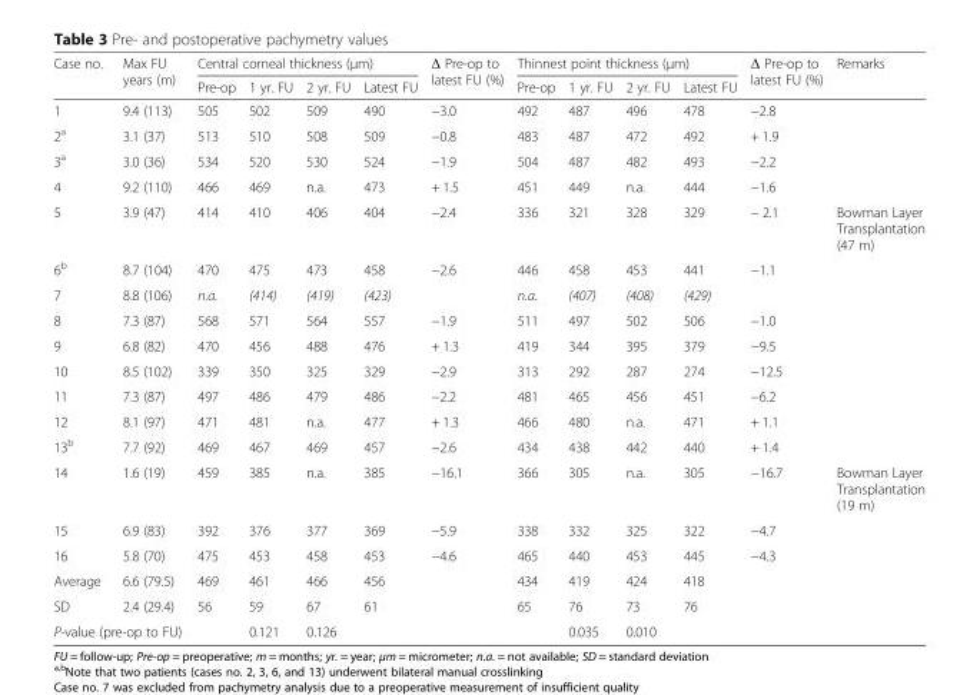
<table><thead><tr><td rowspan="2">Case no.</td><td rowspan="2">Max FU years (m)</td><td colspan="4">Central corneal thickness (μm)</td><td rowspan="2">Δ Pre-op to latest FU (%)</td><td colspan="4">Thinnest point thickness (μm)</td><td rowspan="2">Δ Pre-op to latest FU (%)</td><td rowspan="2">Remarks</td></tr><tr><td>Pre-op</td><td>1 yr. FU</td><td>2 yr. FU</td><td>Latest FU</td><td>Pre-op</td><td>1 yr. FU</td><td>2 yr. FU</td><td>Latest FU</td></tr></thead><tbody><tr><td>1</td><td>9.4 (113)</td><td>505</td><td>502</td><td>509</td><td>490</td><td>−3.0</td><td>492</td><td>487</td><td>496</td><td>478</td><td>−2.8</td><td></td></tr><tr><td>2<sup>a</sup></td><td>3.1 (37)</td><td>513</td><td>510</td><td>508</td><td>509</td><td>−0.8</td><td>483</td><td>487</td><td>472</td><td>492</td><td>+ 1.9</td><td></td></tr><tr><td>3<sup>a</sup></td><td>3.0 (36)</td><td>534</td><td>520</td><td>530</td><td>524</td><td>−1.9</td><td>504</td><td>487</td><td>482</td><td>493</td><td>−2.2</td><td></td></tr><tr><td>4</td><td>9.2 (110)</td><td>466</td><td>469</td><td>n.a.</td><td>473</td><td>+ 1.5</td><td>451</td><td>449</td><td>n.a.</td><td>444</td><td>−1.6</td><td></td></tr><tr><td>5</td><td>3.9 (47)</td><td>414</td><td>410</td><td>406</td><td>404</td><td>−2.4</td><td>336</td><td>321</td><td>328</td><td>329</td><td>− 2.1</td><td>Bowman Layer Transplantation (47 m)</td></tr><tr><td>6<sup>b</sup></td><td>8.7 (104)</td><td>470</td><td>475</td><td>473</td><td>458</td><td>−2.6</td><td>446</td><td>458</td><td>453</td><td>441</td><td>−1.1</td><td></td></tr><tr><td>7</td><td>8.8 (106)</td><td>n.a.</td><td>(414)</td><td>(419)</td><td>(423)</td><td></td><td>n.a.</td><td>(407)</td><td>(408)</td><td>(429)</td><td></td><td></td></tr><tr><td>8</td><td>7.3 (87)</td><td>568</td><td>571</td><td>564</td><td>557</td><td>−1.9</td><td>511</td><td>497</td><td>502</td><td>506</td><td>−1.0</td><td></td></tr><tr><td>9</td><td>6.8 (82)</td><td>470</td><td>456</td><td>488</td><td>476</td><td>+ 1.3</td><td>419</td><td>344</td><td>395</td><td>379</td><td>−9.5</td><td></td></tr><tr><td>10</td><td>8.5 (102)</td><td>339</td><td>350</td><td>325</td><td>329</td><td>−2.9</td><td>313</td><td>292</td><td>287</td><td>274</td><td>−12.5</td><td></td></tr><tr><td>11</td><td>7.3 (87)</td><td>497</td><td>486</td><td>479</td><td>486</td><td>−2.2</td><td>481</td><td>465</td><td>456</td><td>451</td><td>−6.2</td><td></td></tr><tr><td>12</td><td>8.1 (97)</td><td>471</td><td>481</td><td>n.a.</td><td>477</td><td>+ 1.3</td><td>466</td><td>480</td><td>n.a.</td><td>471</td><td>+ 1.1</td><td></td></tr><tr><td>13<sup>b</sup></td><td>7.7 (92)</td><td>469</td><td>467</td><td>469</td><td>457</td><td>−2.6</td><td>434</td><td>438</td><td>442</td><td>440</td><td>+ 1.4</td><td></td></tr><tr><td>14</td><td>1.6 (19)</td><td>459</td><td>385</td><td>n.a.</td><td>385</td><td>−16.1</td><td>366</td><td>305</td><td>n.a.</td><td>305</td><td>−16.7</td><td>Bowman Layer Transplantation (19 m)</td></tr><tr><td>15</td><td>6.9 (83)</td><td>392</td><td>376</td><td>377</td><td>369</td><td>−5.9</td><td>338</td><td>332</td><td>325</td><td>322</td><td>−4.7</td><td></td></tr><tr><td>16</td><td>5.8 (70)</td><td>475</td><td>453</td><td>458</td><td>453</td><td>−4.6</td><td>465</td><td>440</td><td>453</td><td>445</td><td>−4.3</td><td></td></tr><tr><td>Average</td><td>6.6 (79.5)</td><td>469</td><td>461</td><td>466</td><td>456</td><td></td><td>434</td><td>419</td><td>424</td><td>418</td><td></td><td></td></tr><tr><td>SD</td><td>2.4 (29.4)</td><td>56</td><td>59</td><td>67</td><td>61</td><td></td><td>65</td><td>76</td><td>73</td><td>76</td><td></td><td></td></tr><tr><td colspan="2">P-value (pre-op to FU)</td><td></td><td>0.121</td><td>0.126</td><td></td><td></td><td></td><td>0.035</td><td>0.010</td><td></td><td></td><td></td></tr></tbody></table>